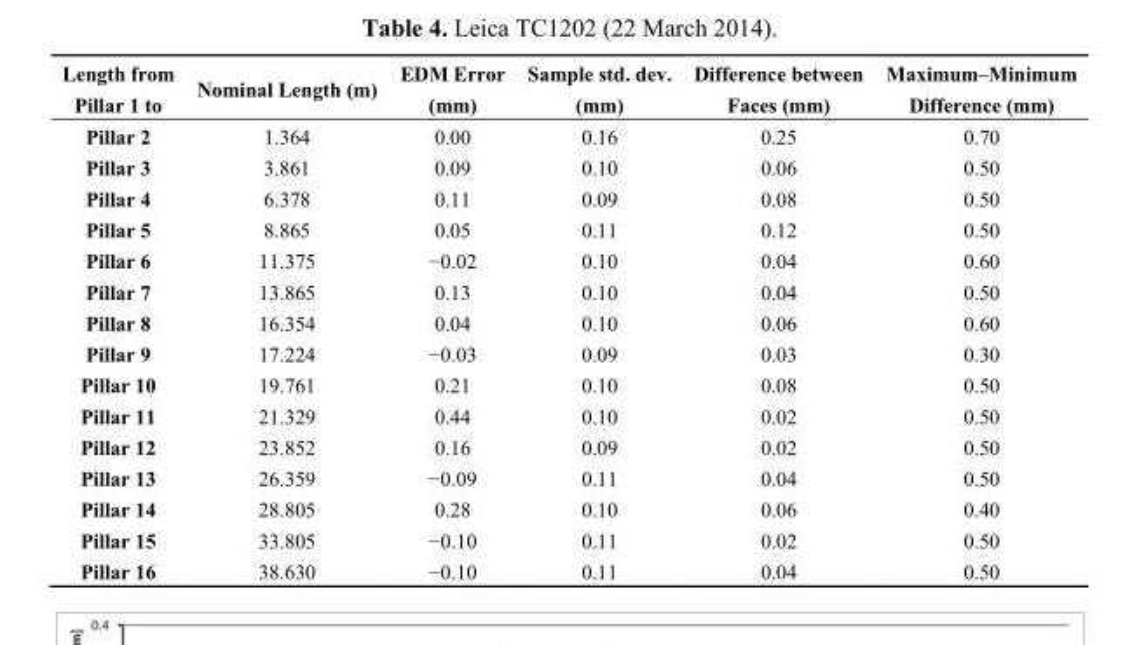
<table><thead><tr><td>Length from Pillar 1 to</td><td>Nominal Length (m)</td><td>EDM Error (mm)</td><td>Sample std. dev. (mm)</td><td>Difference between Faces (mm)</td><td>Maximum–Minimum Difference (mm)</td></tr></thead><tbody><tr><td>Pillar 2</td><td>1.364</td><td>0.00</td><td>0.16</td><td>0.25</td><td>0.70</td></tr><tr><td>Pillar 3</td><td>3.861</td><td>0.09</td><td>0.10</td><td>0.06</td><td>0.50</td></tr><tr><td>Pillar 4</td><td>6.378</td><td>0.11</td><td>0.09</td><td>0.08</td><td>0.50</td></tr><tr><td>Pillar 5</td><td>8.865</td><td>0.05</td><td>0.11</td><td>0.12</td><td>0.50</td></tr><tr><td>Pillar 6</td><td>11.375</td><td>−0.02</td><td>0.10</td><td>0.04</td><td>0.60</td></tr><tr><td>Pillar 7</td><td>13.865</td><td>0.13</td><td>0.10</td><td>0.04</td><td>0.50</td></tr><tr><td>Pillar 8</td><td>16.354</td><td>0.04</td><td>0.10</td><td>0.06</td><td>0.60</td></tr><tr><td>Pillar 9</td><td>17.224</td><td>−0.03</td><td>0.09</td><td>0.03</td><td>0.30</td></tr><tr><td>Pillar 10</td><td>19.761</td><td>0.21</td><td>0.10</td><td>0.08</td><td>0.50</td></tr><tr><td>Pillar 11</td><td>21.329</td><td>0.44</td><td>0.10</td><td>0.02</td><td>0.50</td></tr><tr><td>Pillar 12</td><td>23.852</td><td>0.16</td><td>0.09</td><td>0.02</td><td>0.50</td></tr><tr><td>Pillar 13</td><td>26.359</td><td>−0.09</td><td>0.11</td><td>0.04</td><td>0.50</td></tr><tr><td>Pillar 14</td><td>28.805</td><td>0.28</td><td>0.10</td><td>0.06</td><td>0.40</td></tr><tr><td>Pillar 15</td><td>33.805</td><td>−0.10</td><td>0.11</td><td>0.02</td><td>0.50</td></tr><tr><td>Pillar 16</td><td>38.630</td><td>−0.10</td><td>0.11</td><td>0.04</td><td>0.50</td></tr></tbody></table>